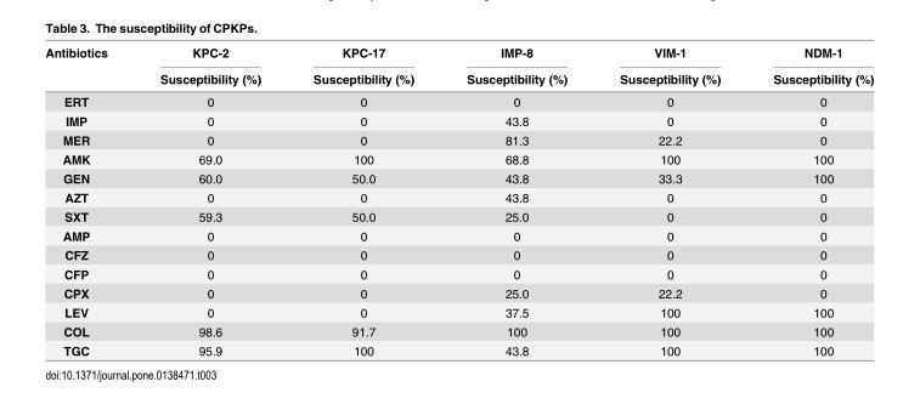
<table><thead><tr><td rowspan="2">Antibiotics</td><td rowspan="2">KPC-2 Susceptibility (%)</td><td rowspan="2">KPC-17 Susceptibility (%)</td><td rowspan="2">IMP-8 Susceptibility (%)</td><td rowspan="2">VIM-1 Susceptibility (%)</td><td rowspan="2">NDM-1 Susceptibility (%)</td></tr><tr></tr></thead><tbody><tr><td>ERT</td><td>0</td><td>0</td><td>0</td><td>0</td><td>0</td></tr><tr><td>IMP</td><td>0</td><td>0</td><td>43.8</td><td>0</td><td>0</td></tr><tr><td>MER</td><td>0</td><td>0</td><td>81.3</td><td>22.2</td><td>0</td></tr><tr><td>AMK</td><td>69.0</td><td>100</td><td>68.8</td><td>100</td><td>100</td></tr><tr><td>GEN</td><td>60.0</td><td>50.0</td><td>43.8</td><td>33.3</td><td>100</td></tr><tr><td>AZT</td><td>0</td><td>0</td><td>43.8</td><td>0</td><td>0</td></tr><tr><td>SXT</td><td>59.3</td><td>50.0</td><td>25.0</td><td>0</td><td>0</td></tr><tr><td>AMP</td><td>0</td><td>0</td><td>0</td><td>0</td><td>0</td></tr><tr><td>CFZ</td><td>0</td><td>0</td><td>0</td><td>0</td><td>0</td></tr><tr><td>CFP</td><td>0</td><td>0</td><td>0</td><td>0</td><td>0</td></tr><tr><td>CPX</td><td>0</td><td>0</td><td>25.0</td><td>22.2</td><td>0</td></tr><tr><td>LEV</td><td>0</td><td>0</td><td>37.5</td><td>100</td><td>100</td></tr><tr><td>COL</td><td>98.6</td><td>91.7</td><td>100</td><td>100</td><td>100</td></tr><tr><td>TGC</td><td>95.9</td><td>100</td><td>43.8</td><td>100</td><td>100</td></tr></tbody></table>